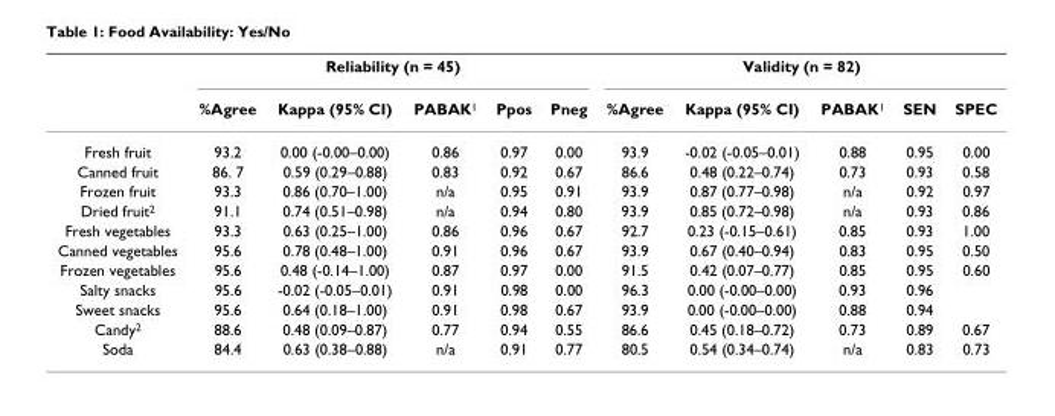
<table><thead><tr><td rowspan="2"></td><td colspan="5">Reliability (n = 45)</td><td colspan="5">Validity (n = 82)</td></tr><tr><td>%Agree</td><td>Kappa (95% CI)</td><td>PABAK<sup>1</sup></td><td>Ppos</td><td>Pneg</td><td>%Agree</td><td>Kappa (95% CI)</td><td>PABAK<sup>1</sup></td><td>SEN</td><td>SPEC</td></tr></thead><tbody><tr><td>Fresh fruit</td><td>93.2</td><td>0.00 (-0.00–0.00)</td><td>0.86</td><td>0.97</td><td>0.00</td><td>93.9</td><td>-0.02 (-0.05–0.01)</td><td>0.88</td><td>0.95</td><td>0.00</td></tr><tr><td>Canned fruit</td><td>86. 7</td><td>0.59 (0.29–0.88)</td><td>0.83</td><td>0.92</td><td>0.67</td><td>86.6</td><td>0.48 (0.22–0.74)</td><td>0.73</td><td>0.93</td><td>0.58</td></tr><tr><td>Frozen fruit</td><td>93.3</td><td>0.86 (0.70–1.00)</td><td>n/a</td><td>0.95</td><td>0.91</td><td>93.9</td><td>0.87 (0.77–0.98)</td><td>n/a</td><td>0.92</td><td>0.97</td></tr><tr><td>Dried fruit<sup>2</sup></td><td>91.1</td><td>0.74 (0.51–0.98)</td><td>n/a</td><td>0.94</td><td>0.80</td><td>93.9</td><td>0.85 (0.72–0.98)</td><td>n/a</td><td>0.93</td><td>0.86</td></tr><tr><td>Fresh vegetables</td><td>93.3</td><td>0.63 (0.25–1.00)</td><td>0.86</td><td>0.96</td><td>0.67</td><td>92.7</td><td>0.23 (-0.15–0.61)</td><td>0.85</td><td>0.93</td><td>1.00</td></tr><tr><td>Canned vegetables</td><td>95.6</td><td>0.78 (0.48–1.00)</td><td>0.91</td><td>0.96</td><td>0.67</td><td>93.9</td><td>0.67 (0.40–0.94)</td><td>0.83</td><td>0.95</td><td>0.50</td></tr><tr><td>Frozen vegetables</td><td>95.6</td><td>0.48 (-0.14–1.00)</td><td>0.87</td><td>0.97</td><td>0.00</td><td>91.5</td><td>0.42 (0.07–0.77)</td><td>0.85</td><td>0.95</td><td>0.60</td></tr><tr><td>Salty snacks</td><td>95.6</td><td>-0.02 (-0.05–0.01)</td><td>0.91</td><td>0.98</td><td>0.00</td><td>96.3</td><td>0.00 (-0.00–0.00)</td><td>0.93</td><td>0.96</td><td></td></tr><tr><td>Sweet snacks</td><td>95.6</td><td>0.64 (0.18–1.00)</td><td>0.91</td><td>0.98</td><td>0.67</td><td>93.9</td><td>0.00 (-0.00–0.00)</td><td>0.88</td><td>0.94</td><td></td></tr><tr><td>Candy<sup>2</sup></td><td>88.6</td><td>0.48 (0.09–0.87)</td><td>0.77</td><td>0.94</td><td>0.55</td><td>86.6</td><td>0.45 (0.18–0.72)</td><td>0.73</td><td>0.89</td><td>0.67</td></tr><tr><td>Soda</td><td>84.4</td><td>0.63 (0.38–0.88)</td><td>n/a</td><td>0.91</td><td>0.77</td><td>80.5</td><td>0.54 (0.34–0.74)</td><td>n/a</td><td>0.83</td><td>0.73</td></tr></tbody></table>